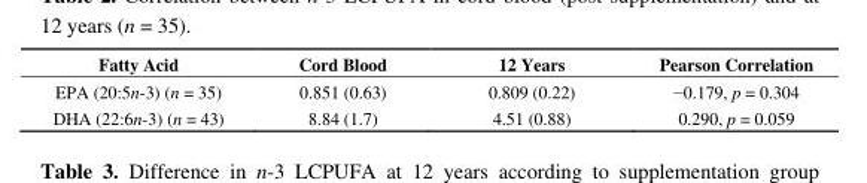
<table><thead><tr><td>Fatty Acid</td><td>Cord Blood</td><td>12 Years</td><td>Pearson Correlation</td></tr></thead><tbody><tr><td>EPA (20:5n-3) (n = 35)</td><td>0.851 (0.63)</td><td>0.809 (0.22)</td><td>−0.179, p = 0.304</td></tr><tr><td>DHA (22:6n-3) (n = 43)</td><td>8.84 (1.7)</td><td>4.51 (0.88)</td><td>0.290, p = 0.059</td></tr></tbody></table>